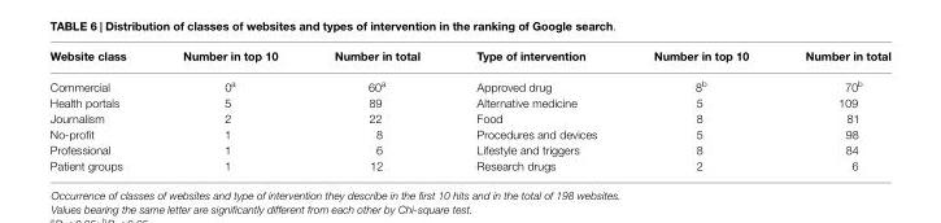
<table><thead><tr><td>Website class</td><td>Number in top 10</td><td>Number in total</td><td>Type of intervention</td><td>Number in top 10</td><td>Number in total</td></tr></thead><tbody><tr><td>Commercial</td><td>0<sup>a</sup></td><td>60<sup>a</sup></td><td>Approved drug</td><td>8<sup>b</sup></td><td>70<sup>b</sup></td></tr><tr><td>Health portals</td><td>5</td><td>89</td><td>Alternative medicine</td><td>5</td><td>109</td></tr><tr><td>Journalism</td><td>2</td><td>22</td><td>Food</td><td>8</td><td>81</td></tr><tr><td>No-profit</td><td>1</td><td>8</td><td>Procedures and devices</td><td>5</td><td>98</td></tr><tr><td>Professional</td><td>1</td><td>6</td><td>Lifestyle and triggers</td><td>8</td><td>84</td></tr><tr><td>Patient groups</td><td>1</td><td>12</td><td>Research drugs</td><td>2</td><td>6</td></tr></tbody></table>